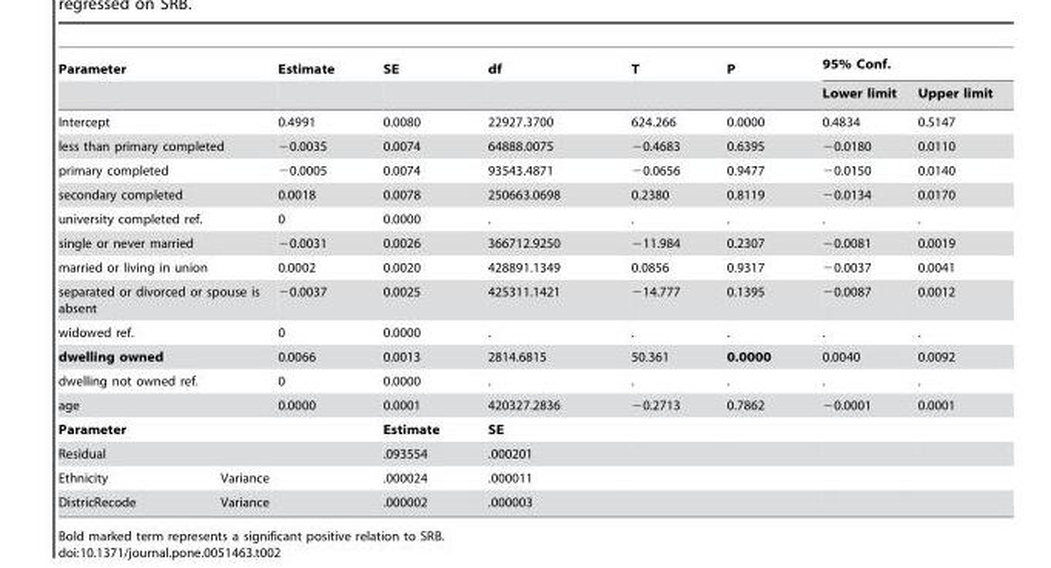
<table><thead><tr><td colspan="2">Parameter</td><td rowspan="2">Estimate</td><td rowspan="2">SE</td><td rowspan="2">df</td><td rowspan="2">T</td><td rowspan="2">P</td><td colspan="2">95% Conf.</td></tr><tr><td></td><td></td><td>Lower limit</td><td>Upper limit</td></tr></thead><tbody><tr><td colspan="2">Intercept</td><td>0.4991</td><td>0.0080</td><td>22927.3700</td><td>624.266</td><td>0.0000</td><td>0.4834</td><td>0.5147</td></tr><tr><td colspan="2">less than primary completed</td><td>−0.0035</td><td>0.0074</td><td>64888.0075</td><td>−0.4683</td><td>0.6395</td><td>−0.0180</td><td>0.0110</td></tr><tr><td colspan="2">primary completed</td><td>−0.0005</td><td>0.0074</td><td>93543.4871</td><td>−0.0656</td><td>0.9477</td><td>−0.0150</td><td>0.0140</td></tr><tr><td colspan="2">secondary completed</td><td>0.0018</td><td>0.0078</td><td>250663.0698</td><td>0.2380</td><td>0.8119</td><td>−0.0134</td><td>0.0170</td></tr><tr><td colspan="2">university completed ref.</td><td>0</td><td>0.0000</td><td>.</td><td>.</td><td>.</td><td>.</td><td>.</td></tr><tr><td colspan="2">single or never married</td><td>−0.0031</td><td>0.0026</td><td>366712.9250</td><td>−11.984</td><td>0.2307</td><td>−0.0081</td><td>0.0019</td></tr><tr><td colspan="2">married or living in union</td><td>0.0002</td><td>0.0020</td><td>428891.1349</td><td>0.0856</td><td>0.9317</td><td>−0.0037</td><td>0.0041</td></tr><tr><td colspan="2">separated or divorced or spouse is absent</td><td>−0.0037</td><td>0.0025</td><td>425311.1421</td><td>−14.777</td><td>0.1395</td><td>−0.0087</td><td>0.0012</td></tr><tr><td colspan="2">widowed ref.</td><td>0</td><td>0.0000</td><td>.</td><td>.</td><td>.</td><td>.</td><td>.</td></tr><tr><td colspan="2">dwelling owned</td><td>0.0066</td><td>0.0013</td><td>2814.6815</td><td>50.361</td><td>0.0000</td><td>0.0040</td><td>0.0092</td></tr><tr><td colspan="2">dwelling not owned ref.</td><td>0</td><td>0.0000</td><td>.</td><td>.</td><td>.</td><td>.</td><td>.</td></tr><tr><td colspan="2">age</td><td>0.0000</td><td>0.0001</td><td>420327.2836</td><td>−0.2713</td><td>0.7862</td><td>−0.0001</td><td>0.0001</td></tr><tr><td colspan="3">Parameter</td><td>Estimate</td><td>SE</td><td></td><td></td><td></td><td></td></tr><tr><td colspan="3">Residual</td><td>.093554</td><td>.000201</td><td></td><td></td><td></td><td></td></tr><tr><td>Ethnicity</td><td colspan="2">Variance</td><td>.000024</td><td>.000011</td><td></td><td></td><td></td><td></td></tr><tr><td>DistricRecode</td><td colspan="2">Variance</td><td>.000002</td><td>.000003</td><td></td><td></td><td></td><td></td></tr></tbody></table>